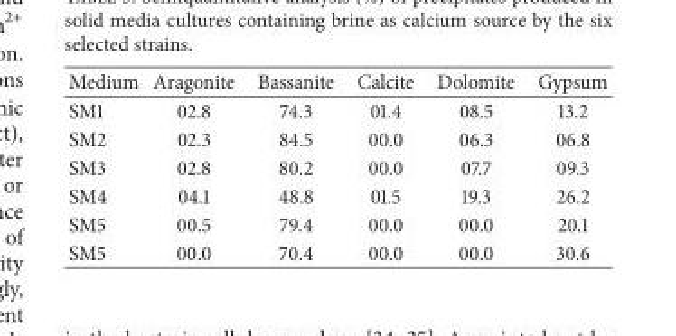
<table><thead><tr><td>Medium</td><td>Aragonite</td><td>Bassanite</td><td>Calcite</td><td>Dolomite</td><td>Gypsum</td></tr></thead><tbody><tr><td>SM1</td><td>02.8</td><td>74.3</td><td>01.4</td><td>08.5</td><td>13.2</td></tr><tr><td>SM2</td><td>02.3</td><td>84.5</td><td>00.0</td><td>06.3</td><td>06.8</td></tr><tr><td>SM3</td><td>02.8</td><td>80.2</td><td>00.0</td><td>07.7</td><td>09.3</td></tr><tr><td>SM4</td><td>04.1</td><td>48.8</td><td>01.5</td><td>19.3</td><td>26.2</td></tr><tr><td>SM5</td><td>00.5</td><td>79.4</td><td>00.0</td><td>00.0</td><td>20.1</td></tr><tr><td>SM5</td><td>00.0</td><td>70.4</td><td>00.0</td><td>00.0</td><td>30.6</td></tr></tbody></table>